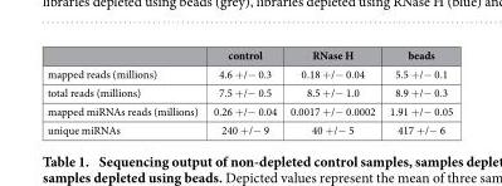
<table><thead><tr><td></td><td>control</td><td>RNase H</td><td>beads</td></tr></thead><tbody><tr><td>mapped reads (millions)</td><td>4.6 + /− 0.3</td><td>0.18 + /− 0.04</td><td>5.5 + /− 0.1</td></tr><tr><td>total reads (millions)</td><td>7.5 + /− 0.5</td><td>8.5 + /− 1.0</td><td>8.9 + /− 0.3</td></tr><tr><td>mapped miRNAs reads (millions)</td><td>0.26 + /− 0.04</td><td>0.0017 + /− 0.0002</td><td>1.91 + /− 0.05</td></tr><tr><td>unique miRNAs</td><td>240 + /− 9</td><td>40 + /− 5</td><td>417 + /− 6</td></tr></tbody></table>